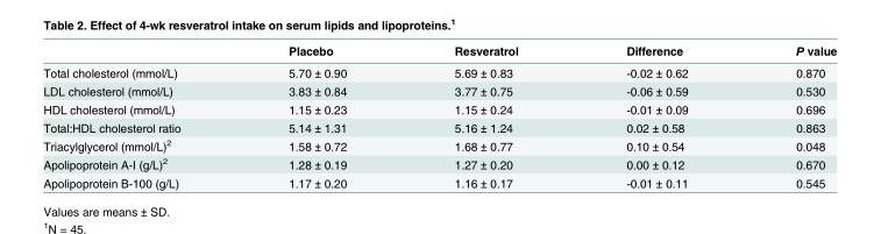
<table><thead><tr><td></td><td>Placebo</td><td>Resveratrol</td><td>Difference</td><td>P value</td></tr></thead><tbody><tr><td>Total cholesterol (mmol/L)</td><td>5.70 ± 0.90</td><td>5.69 ± 0.83</td><td>-0.02 ± 0.62</td><td>0.870</td></tr><tr><td>LDL cholesterol (mmol/L)</td><td>3.83 ± 0.84</td><td>3.77 ± 0.75</td><td>-0.06 ± 0.59</td><td>0.530</td></tr><tr><td>HDL cholesterol (mmol/L)</td><td>1.15 ± 0.23</td><td>1.15 ± 0.24</td><td>-0.01 ± 0.09</td><td>0.696</td></tr><tr><td>Total:HDL cholesterol ratio</td><td>5.14 ± 1.31</td><td>5.16 ± 1.24</td><td>0.02 ± 0.58</td><td>0.863</td></tr><tr><td>Triacylglycerol (mmol/L)<sup>2</sup></td><td>1.58 ± 0.72</td><td>1.68 ± 0.77</td><td>0.10 ± 0.54</td><td>0.048</td></tr><tr><td>Apolipoprotein A-I (g/L)<sup>2</sup></td><td>1.28 ± 0.19</td><td>1.27 ± 0.20</td><td>0.00 ± 0.12</td><td>0.670</td></tr><tr><td>Apolipoprotein B-100 (g/L)</td><td>1.17 ± 0.20</td><td>1.16 ± 0.17</td><td>-0.01 ± 0.11</td><td>0.545</td></tr></tbody></table>